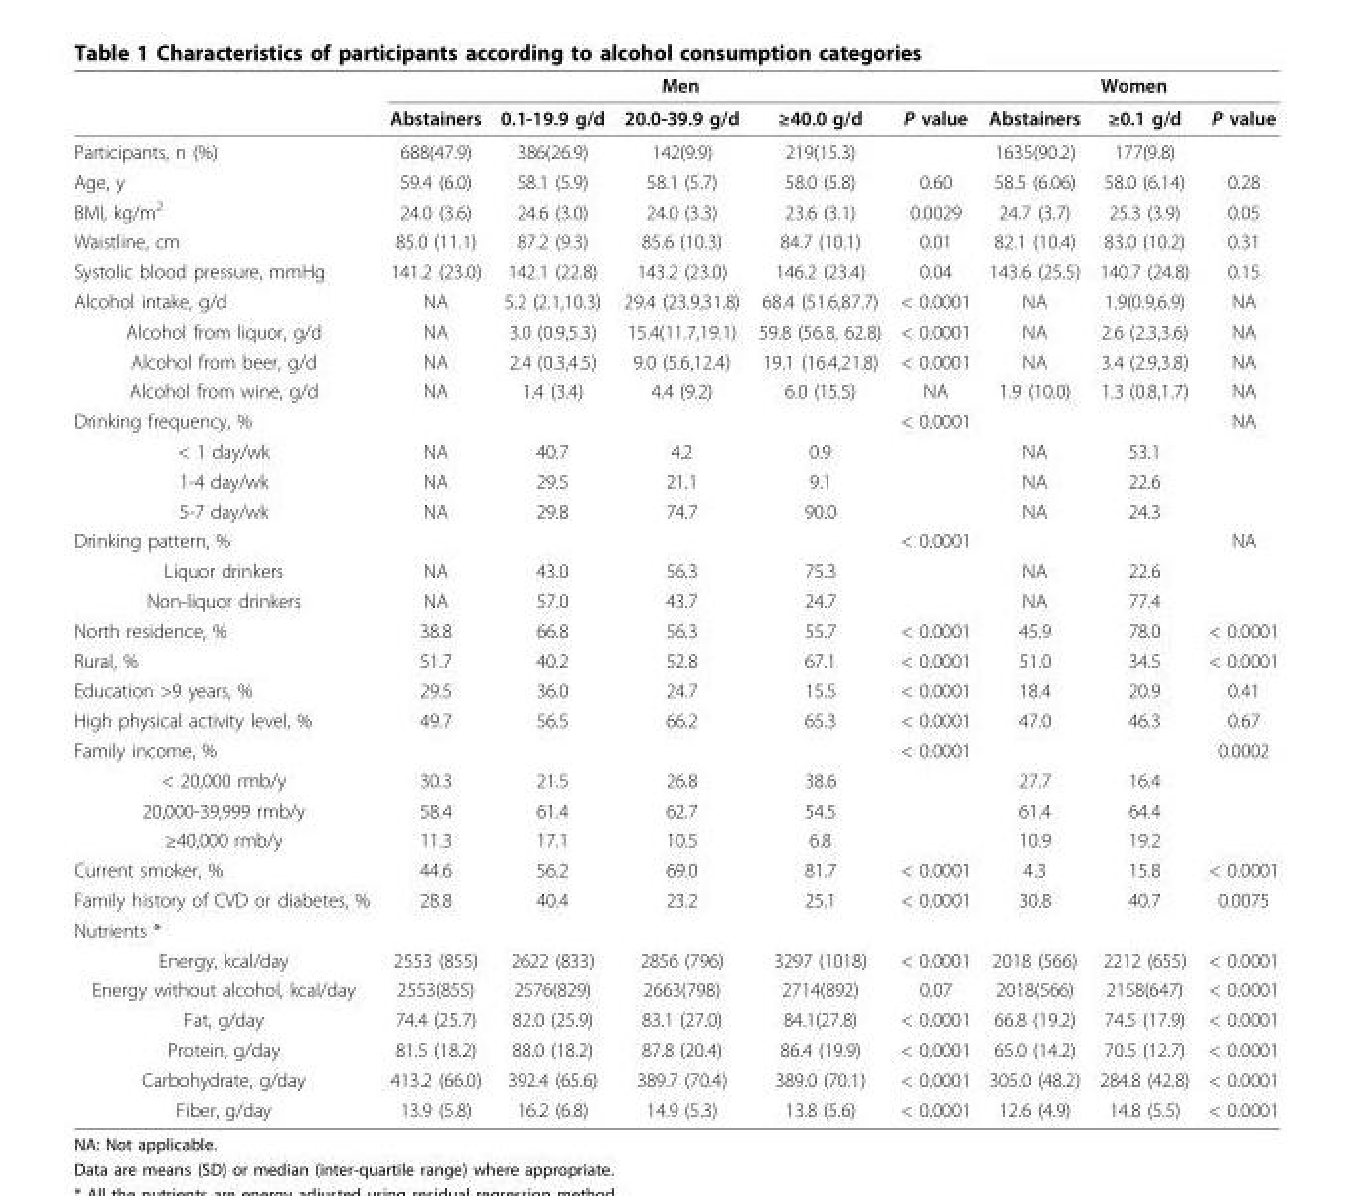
<table><thead><tr><td rowspan="2"></td><td colspan="5">Men</td><td colspan="3">Women</td></tr><tr><td>Abstainers</td><td>0.1-19.9 g/d</td><td>20.0-39.9 g/d</td><td>≥40.0 g/d</td><td>P value</td><td>Abstainers</td><td>≥0.1 g/d</td><td>P value</td></tr></thead><tbody><tr><td>Participants, n (%)</td><td>688(47.9)</td><td>386(26.9)</td><td>142(9.9)</td><td>219(15.3)</td><td></td><td>1635(90.2)</td><td>177(9.8)</td><td></td></tr><tr><td>Age, y</td><td>59.4 (6.0)</td><td>58.1 (5.9)</td><td>58.1 (5.7)</td><td>58.0 (5.8)</td><td>0.60</td><td>58.5 (6.06)</td><td>58.0 (6.14)</td><td>0.28</td></tr><tr><td>BMI, kg/m<sup>2</sup></td><td>24.0 (3.6)</td><td>24.6 (3.0)</td><td>24.0 (3.3)</td><td>23.6 (3.1)</td><td>0.0029</td><td>24.7 (3.7)</td><td>25.3 (3.9)</td><td>0.05</td></tr><tr><td>Waistline, cm</td><td>85.0 (11.1)</td><td>87.2 (9.3)</td><td>85.6 (10.3)</td><td>84.7 (10.1)</td><td>0.01</td><td>82.1 (10.4)</td><td>83.0 (10.2)</td><td>0.31</td></tr><tr><td>Systolic blood pressure, mmHg</td><td>141.2 (23.0)</td><td>142.1 (22.8)</td><td>143.2 (23.0)</td><td>146.2 (23.4)</td><td>0.04</td><td>143.6 (25.5)</td><td>140.7 (24.8)</td><td>0.15</td></tr><tr><td>Alcohol intake, g/d</td><td>NA</td><td>5.2 (2.1,10.3)</td><td>29.4 (23.9,31.8)</td><td>68.4 (51.6,87.7)</td><td>&lt; 0.0001</td><td>NA</td><td>1.9(0.9,6.9)</td><td>NA</td></tr><tr><td>Alcohol from liquor, g/d</td><td>NA</td><td>3.0 (0.9,5.3)</td><td>15.4(11.7,19.1)</td><td>59.8 (56.8, 62.8)</td><td>&lt; 0.0001</td><td>NA</td><td>2.6 (2.3,3.6)</td><td>NA</td></tr><tr><td>Alcohol from beer, g/d</td><td>NA</td><td>2.4 (0.3,4.5)</td><td>9.0 (5.6,12.4)</td><td>19.1 (16.4,21.8)</td><td>&lt; 0.0001</td><td>NA</td><td>3.4 (2.9,3.8)</td><td>NA</td></tr><tr><td>Alcohol from wine, g/d</td><td>NA</td><td>1.4 (3.4)</td><td>4.4 (9.2)</td><td>6.0 (15.5)</td><td>NA</td><td>1.9 (10.0)</td><td>1.3 (0.8,1.7)</td><td>NA</td></tr><tr><td>Drinking frequency, %</td><td></td><td></td><td></td><td></td><td>&lt; 0.0001</td><td></td><td></td><td>NA</td></tr><tr><td>&lt; 1 day/wk</td><td>NA</td><td>40.7</td><td>4.2</td><td>0.9</td><td></td><td>NA</td><td>53.1</td><td></td></tr><tr><td>1-4 day/wk</td><td>NA</td><td>29.5</td><td>21.1</td><td>9.1</td><td></td><td>NA</td><td>22.6</td><td></td></tr><tr><td>5-7 day/wk</td><td>NA</td><td>29.8</td><td>74.7</td><td>90.0</td><td></td><td>NA</td><td>24.3</td><td></td></tr><tr><td>Drinking pattern, %</td><td></td><td></td><td></td><td></td><td>&lt; 0.0001</td><td></td><td></td><td>NA</td></tr><tr><td>Liquor drinkers</td><td>NA</td><td>43.0</td><td>56.3</td><td>75.3</td><td></td><td>NA</td><td>22.6</td><td></td></tr><tr><td>Non-liquor drinkers</td><td>NA</td><td>57.0</td><td>43.7</td><td>24.7</td><td></td><td>NA</td><td>77.4</td><td></td></tr><tr><td>North residence, %</td><td>38.8</td><td>66.8</td><td>56.3</td><td>55.7</td><td>&lt; 0.0001</td><td>45.9</td><td>78.0</td><td>&lt; 0.0001</td></tr><tr><td>Rural, %</td><td>51.7</td><td>40.2</td><td>52.8</td><td>67.1</td><td>&lt; 0.0001</td><td>51.0</td><td>34.5</td><td>&lt; 0.0001</td></tr><tr><td>Education &gt;9 years, %</td><td>29.5</td><td>36.0</td><td>24.7</td><td>15.5</td><td>&lt; 0.0001</td><td>18.4</td><td>20.9</td><td>0.41</td></tr><tr><td>High physical activity level, %</td><td>49.7</td><td>56.5</td><td>66.2</td><td>65.3</td><td>&lt; 0.0001</td><td>47.0</td><td>46.3</td><td>0.67</td></tr><tr><td>Family income, %</td><td></td><td></td><td></td><td></td><td>&lt; 0.0001</td><td></td><td></td><td>0.0002</td></tr><tr><td>&lt; 20,000 rmb/y</td><td>30.3</td><td>21.5</td><td>26.8</td><td>38.6</td><td></td><td>27.7</td><td>16.4</td><td></td></tr><tr><td>20,000-39,999 rmb/y</td><td>58.4</td><td>61.4</td><td>62.7</td><td>54.5</td><td></td><td>61.4</td><td>64.4</td><td></td></tr><tr><td>≥40,000 rmb/y</td><td>11.3</td><td>17.1</td><td>10.5</td><td>6.8</td><td></td><td>10.9</td><td>19.2</td><td></td></tr><tr><td>Current smoker, %</td><td>44.6</td><td>56.2</td><td>69.0</td><td>81.7</td><td>&lt; 0.0001</td><td>4.3</td><td>15.8</td><td>&lt; 0.0001</td></tr><tr><td>Family history of CVD or diabetes, %</td><td>28.8</td><td>40.4</td><td>23.2</td><td>25.1</td><td>&lt; 0.0001</td><td>30.8</td><td>40.7</td><td>0.0075</td></tr><tr><td colspan="9">Nutrients *</td></tr><tr><td>Energy, kcal/day</td><td>2553 (855)</td><td>2622 (833)</td><td>2856 (796)</td><td>3297 (1018)</td><td>&lt; 0.0001</td><td>2018 (566)</td><td>2212 (655)</td><td>&lt; 0.0001</td></tr><tr><td>Energy without alcohol, kcal/day</td><td>2553(855)</td><td>2576(829)</td><td>2663(798)</td><td>2714(892)</td><td>0.07</td><td>2018(566)</td><td>2158(647)</td><td>&lt; 0.0001</td></tr><tr><td>Fat, g/day</td><td>74.4 (25.7)</td><td>82.0 (25.9)</td><td>83.1 (27.0)</td><td>84.1(27.8)</td><td>&lt; 0.0001</td><td>66.8 (19.2)</td><td>74.5 (17.9)</td><td>&lt; 0.0001</td></tr><tr><td>Protein, g/day</td><td>81.5 (18.2)</td><td>88.0 (18.2)</td><td>87.8 (20.4)</td><td>86.4 (19.9)</td><td>&lt; 0.0001</td><td>65.0 (14.2)</td><td>70.5 (12.7)</td><td>&lt; 0.0001</td></tr><tr><td>Carbohydrate, g/day</td><td>413.2 (66.0)</td><td>392.4 (65.6)</td><td>389.7 (70.4)</td><td>389.0 (70.1)</td><td>&lt; 0.0001</td><td>305.0 (48.2)</td><td>284.8 (42.8)</td><td>&lt; 0.0001</td></tr><tr><td>Fiber, g/day</td><td>13.9 (5.8)</td><td>16.2 (6.8)</td><td>14.9 (5.3)</td><td>13.8 (5.6)</td><td>&lt; 0.0001</td><td>12.6 (4.9)</td><td>14.8 (5.5)</td><td>&lt; 0.0001</td></tr></tbody></table>